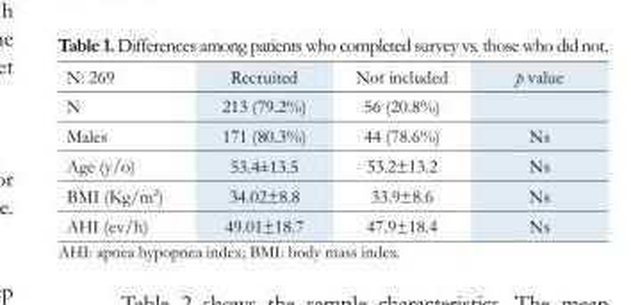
<table><thead><tr><td>N: 269</td><td>Recruited</td><td>Not included</td><td>p value</td></tr></thead><tbody><tr><td>N</td><td>213 (79.2%)</td><td>56 (20.8%)</td><td></td></tr><tr><td>Males</td><td>171 (80.3%)</td><td>44 (78.6%)</td><td>Ns</td></tr><tr><td>Age (y/o)</td><td>53.4±13.5</td><td>53.2±13.2</td><td>Ns</td></tr><tr><td>BMI (Kg/m<sup>2</sup>)</td><td>34.02±8.8</td><td>33.9±8.6</td><td>Ns</td></tr><tr><td>AHI (ev/h)</td><td>49.01±18.7</td><td>47.9±18.4</td><td>Ns</td></tr></tbody></table>